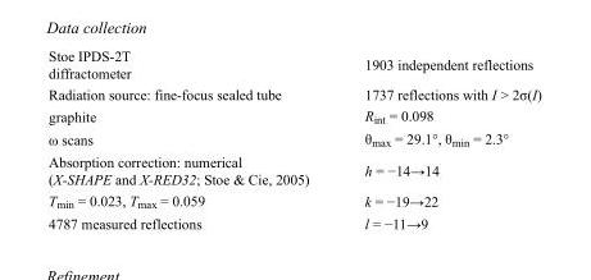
<table><tbody><tr><td>Stoe IPDS-2T diffractometer</td><td>1903 independent reflections</td></tr><tr><td>Radiation source: fine-focus sealed tube</td><td>1737 reflections with I &gt; 2σ(I)</td></tr><tr><td>graphite</td><td>R<sub>int</sub> = 0.098</td></tr><tr><td>ω scans</td><td>θ<sub>max</sub> = 29.1°, θ<sub>min</sub> = 2.3°</td></tr><tr><td>Absorption correction: numerical (X-SHAPE and X-RED32; Stoe &amp; Cie, 2005)</td><td>h = −14→14</td></tr><tr><td>T<sub>min</sub> = 0.023, T<sub>max</sub> = 0.059</td><td>k = −19→22</td></tr><tr><td>4787 measured reflections</td><td>l = −11→9</td></tr></tbody></table>